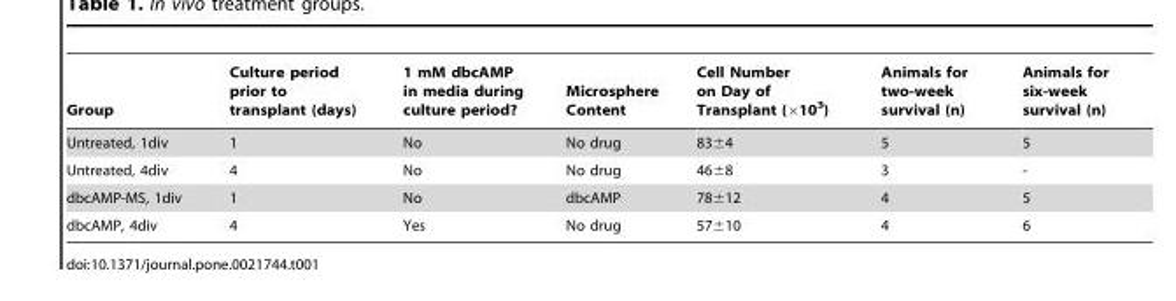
<table><thead><tr><td>Group</td><td>Culture period prior to transplant (days)</td><td>1 mM dbcAMP in media during culture period?</td><td>Microsphere Content</td><td>Cell Number on Day of Transplant (×10<sup>3</sup>)</td><td>Animals for two-week survival (n)</td><td>Animals for six-week survival (n)</td></tr></thead><tbody><tr><td>Untreated, 1div</td><td>1</td><td>No</td><td>No drug</td><td>83±4</td><td>5</td><td>5</td></tr><tr><td>Untreated, 4div</td><td>4</td><td>No</td><td>No drug</td><td>46±8</td><td>3</td><td>-</td></tr><tr><td>dbcAMP-MS, 1div</td><td>1</td><td>No</td><td>dbcAMP</td><td>78±12</td><td>4</td><td>5</td></tr><tr><td>dbcAMP, 4div</td><td>4</td><td>Yes</td><td>No drug</td><td>57±10</td><td>4</td><td>6</td></tr></tbody></table>